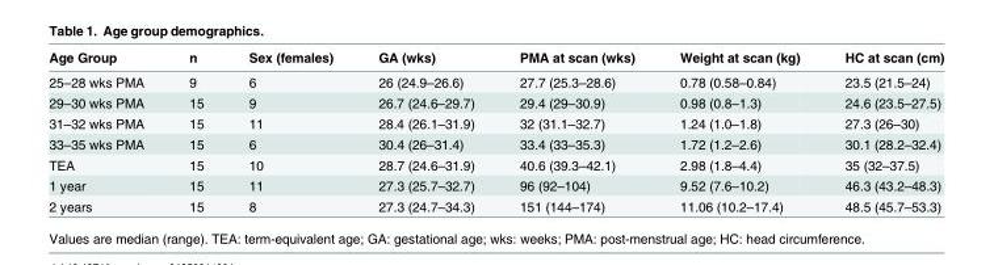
<table><thead><tr><td>Age Group</td><td>n</td><td>Sex (females)</td><td>GA (wks)</td><td>PMA at scan (wks)</td><td>Weight at scan (kg)</td><td>HC at scan (cm)</td></tr></thead><tbody><tr><td>25–28 wks PMA</td><td>9</td><td>6</td><td>26 (24.9–26.6)</td><td>27.7 (25.3–28.6)</td><td>0.78 (0.58–0.84)</td><td>23.5 (21.5–24)</td></tr><tr><td>29–30 wks PMA</td><td>15</td><td>9</td><td>26.7 (24.6–29.7)</td><td>29.4 (29–30.9)</td><td>0.98 (0.8–1.3)</td><td>24.6 (23.5–27.5)</td></tr><tr><td>31–32 wks PMA</td><td>15</td><td>11</td><td>28.4 (26.1–31.9)</td><td>32 (31.1–32.7)</td><td>1.24 (1.0–1.8)</td><td>27.3 (26–30)</td></tr><tr><td>33–35 wks PMA</td><td>15</td><td>6</td><td>30.4 (26–31.4)</td><td>33.4 (33–35.3)</td><td>1.72 (1.2–2.6)</td><td>30.1 (28.2–32.4)</td></tr><tr><td>TEA</td><td>15</td><td>10</td><td>28.7 (24.6–31.9)</td><td>40.6 (39.3–42.1)</td><td>2.98 (1.8–4.4)</td><td>35 (32–37.5)</td></tr><tr><td>1 year</td><td>15</td><td>11</td><td>27.3 (25.7–32.7)</td><td>96 (92–104)</td><td>9.52 (7.6–10.2)</td><td>46.3 (43.2–48.3)</td></tr><tr><td>2 years</td><td>15</td><td>8</td><td>27.3 (24.7–34.3)</td><td>151 (144–174)</td><td>11.06 (10.2–17.4)</td><td>48.5 (45.7–53.3)</td></tr></tbody></table>